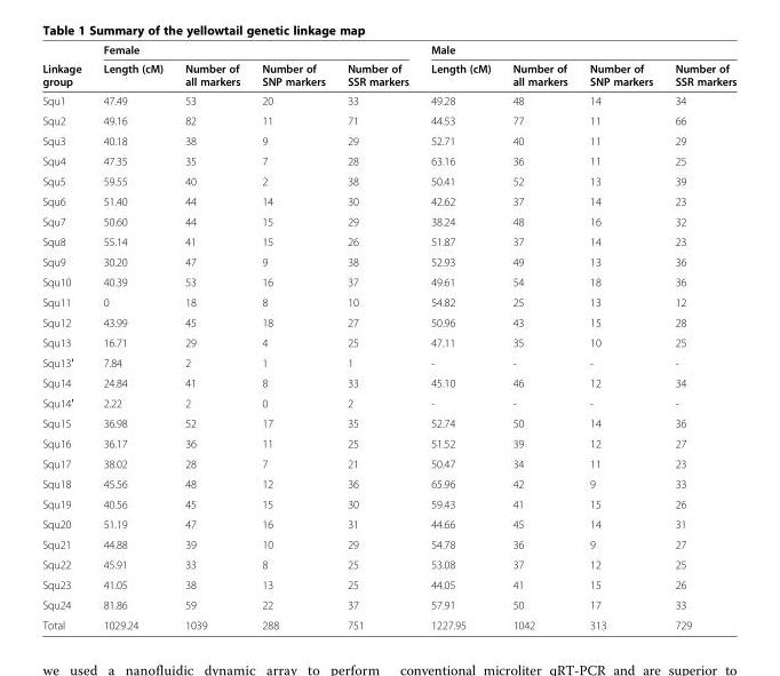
<table><thead><tr><td rowspan="2">Linkage group</td><td colspan="4">Female</td><td colspan="4">Male</td></tr><tr><td>Length (cM)</td><td>Number of all markers</td><td>Number of SNP markers</td><td>Number of SSR markers</td><td>Length (cM)</td><td>Number of all markers</td><td>Number of SNP markers</td><td>Number of SSR markers</td></tr></thead><tbody><tr><td>Squ1</td><td>47.49</td><td>53</td><td>20</td><td>33</td><td>49.28</td><td>48</td><td>14</td><td>34</td></tr><tr><td>Squ2</td><td>49.16</td><td>82</td><td>11</td><td>71</td><td>44.53</td><td>77</td><td>11</td><td>66</td></tr><tr><td>Squ3</td><td>40.18</td><td>38</td><td>9</td><td>29</td><td>52.71</td><td>40</td><td>11</td><td>29</td></tr><tr><td>Squ4</td><td>47.35</td><td>35</td><td>7</td><td>28</td><td>63.16</td><td>36</td><td>11</td><td>25</td></tr><tr><td>Squ5</td><td>59.55</td><td>40</td><td>2</td><td>38</td><td>50.41</td><td>52</td><td>13</td><td>39</td></tr><tr><td>Squ6</td><td>51.40</td><td>44</td><td>14</td><td>30</td><td>42.62</td><td>37</td><td>14</td><td>23</td></tr><tr><td>Squ7</td><td>50.60</td><td>44</td><td>15</td><td>29</td><td>38.24</td><td>48</td><td>16</td><td>32</td></tr><tr><td>Squ8</td><td>55.14</td><td>41</td><td>15</td><td>26</td><td>51.87</td><td>37</td><td>14</td><td>23</td></tr><tr><td>Squ9</td><td>30.20</td><td>47</td><td>9</td><td>38</td><td>52.93</td><td>49</td><td>13</td><td>36</td></tr><tr><td>Squ10</td><td>40.39</td><td>53</td><td>16</td><td>37</td><td>49.61</td><td>54</td><td>18</td><td>36</td></tr><tr><td>Squ11</td><td>0</td><td>18</td><td>8</td><td>10</td><td>54.82</td><td>25</td><td>13</td><td>12</td></tr><tr><td>Squ12</td><td>43.99</td><td>45</td><td>18</td><td>27</td><td>50.96</td><td>43</td><td>15</td><td>28</td></tr><tr><td>Squ13</td><td>16.71</td><td>29</td><td>4</td><td>25</td><td>47.11</td><td>35</td><td>10</td><td>25</td></tr><tr><td>Squ13′</td><td>7.84</td><td>2</td><td>1</td><td>1</td><td>-</td><td>-</td><td>-</td><td>-</td></tr><tr><td>Squ14</td><td>24.84</td><td>41</td><td>8</td><td>33</td><td>45.10</td><td>46</td><td>12</td><td>34</td></tr><tr><td>Squ14′</td><td>2.22</td><td>2</td><td>0</td><td>2</td><td>-</td><td>-</td><td>-</td><td>-</td></tr><tr><td>Squ15</td><td>36.98</td><td>52</td><td>17</td><td>35</td><td>52.74</td><td>50</td><td>14</td><td>36</td></tr><tr><td>Squ16</td><td>36.17</td><td>36</td><td>11</td><td>25</td><td>51.52</td><td>39</td><td>12</td><td>27</td></tr><tr><td>Squ17</td><td>38.02</td><td>28</td><td>7</td><td>21</td><td>50.47</td><td>34</td><td>11</td><td>23</td></tr><tr><td>Squ18</td><td>45.56</td><td>48</td><td>12</td><td>36</td><td>65.96</td><td>42</td><td>9</td><td>33</td></tr><tr><td>Squ19</td><td>40.56</td><td>45</td><td>15</td><td>30</td><td>59.43</td><td>41</td><td>15</td><td>26</td></tr><tr><td>Squ20</td><td>51.19</td><td>47</td><td>16</td><td>31</td><td>44.66</td><td>45</td><td>14</td><td>31</td></tr><tr><td>Squ21</td><td>44.88</td><td>39</td><td>10</td><td>29</td><td>54.78</td><td>36</td><td>9</td><td>27</td></tr><tr><td>Squ22</td><td>45.91</td><td>33</td><td>8</td><td>25</td><td>53.08</td><td>37</td><td>12</td><td>25</td></tr><tr><td>Squ23</td><td>41.05</td><td>38</td><td>13</td><td>25</td><td>44.05</td><td>41</td><td>15</td><td>26</td></tr><tr><td>Squ24</td><td>81.86</td><td>59</td><td>22</td><td>37</td><td>57.91</td><td>50</td><td>17</td><td>33</td></tr><tr><td>Total</td><td>1029.24</td><td>1039</td><td>288</td><td>751</td><td>1227.95</td><td>1042</td><td>313</td><td>729</td></tr></tbody></table>